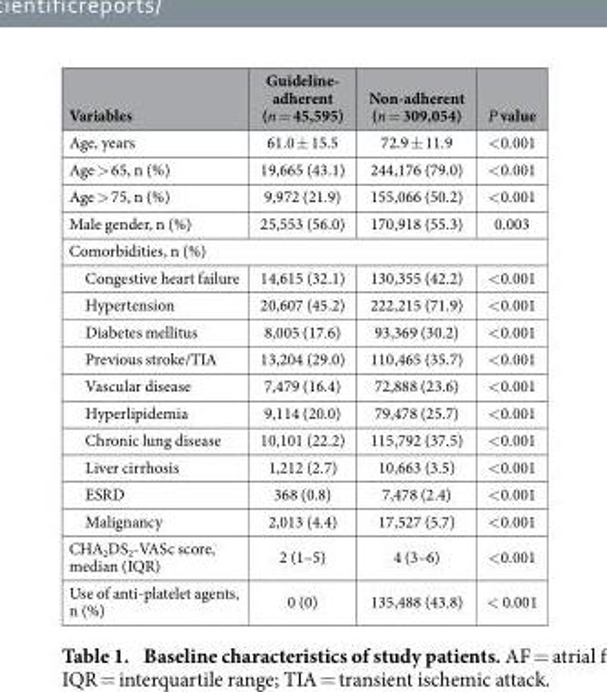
<table><thead><tr><td>Variables</td><td>Guideline- adherent (n = 45,595)</td><td>Non-adherent (n = 309,054)</td><td>P value</td></tr></thead><tbody><tr><td>Age, years</td><td>61.0 ± 15.5</td><td>72.9 ± 11.9</td><td>&lt;0.001</td></tr><tr><td>Age &gt; 65, n (%)</td><td>19,665 (43.1)</td><td>244,176 (79.0)</td><td>&lt;0.001</td></tr><tr><td>Age &gt; 75, n (%)</td><td>9,972 (21.9)</td><td>155,066 (50.2)</td><td>&lt;0.001</td></tr><tr><td>Male gender, n (%)</td><td>25,553 (56.0)</td><td>170,918 (55.3)</td><td>0.003</td></tr><tr><td colspan="4">Comorbidities, n (%)</td></tr><tr><td>Congestive heart failure</td><td>14,615 (32.1)</td><td>130,355 (42.2)</td><td>&lt;0.001</td></tr><tr><td>Hypertension</td><td>20,607 (45.2)</td><td>222,215 (71.9)</td><td>&lt;0.001</td></tr><tr><td>Diabetes mellitus</td><td>8,005 (17.6)</td><td>93,369 (30.2)</td><td>&lt;0.001</td></tr><tr><td>Previous stroke/TIA</td><td>13,204 (29.0)</td><td>110,465 (35.7)</td><td>&lt;0.001</td></tr><tr><td>Vascular disease</td><td>7,479 (16.4)</td><td>72,888 (23.6)</td><td>&lt;0.001</td></tr><tr><td>Hyperlipidemia</td><td>9,114 (20.0)</td><td>79,478 (25.7)</td><td>&lt;0.001</td></tr><tr><td>Chronic lung disease</td><td>10,101 (22.2)</td><td>115,792 (37.5)</td><td>&lt;0.001</td></tr><tr><td>Liver cirrhosis</td><td>1,212 (2.7)</td><td>10,663 (3.5)</td><td>&lt;0.001</td></tr><tr><td>ESRD</td><td>368 (0.8)</td><td>7,478 (2.4)</td><td>&lt;0.001</td></tr><tr><td>Malignancy</td><td>2,013 (4.4)</td><td>17,527 (5.7)</td><td>&lt;0.001</td></tr><tr><td>CHA<sub>2</sub>DS<sub>2</sub>-VASc score, median (IQR)</td><td>2 (1–5)</td><td>4 (3–6)</td><td>&lt;0.001</td></tr><tr><td>Use of anti-platelet agents, n (%)</td><td>0 (0)</td><td>135,488 (43.8)</td><td>&lt; 0.001</td></tr></tbody></table>